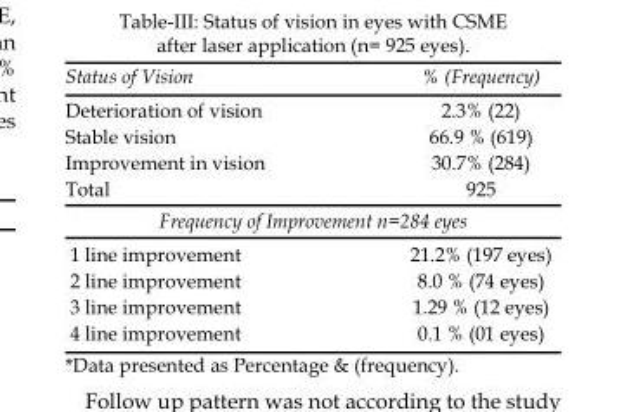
<table><thead><tr><td>Status of Vision</td><td>% (Frequency)</td></tr></thead><tbody><tr><td>Deterioration of vision</td><td>2.3% (22)</td></tr><tr><td>Stable vision</td><td>66.9 % (619)</td></tr><tr><td>Improvement in vision</td><td>30.7% (284)</td></tr><tr><td>Total</td><td>925</td></tr><tr><td colspan="2">Frequency of Improvement n=284 eyes</td></tr><tr><td>1 line improvement</td><td>21.2% (197 eyes)</td></tr><tr><td>2 line improvement</td><td>8.0 % (74 eyes)</td></tr><tr><td>3 line improvement</td><td>1.29 % (12 eyes)</td></tr><tr><td>4 line improvement</td><td>0.1 % (01 eyes)</td></tr></tbody></table>